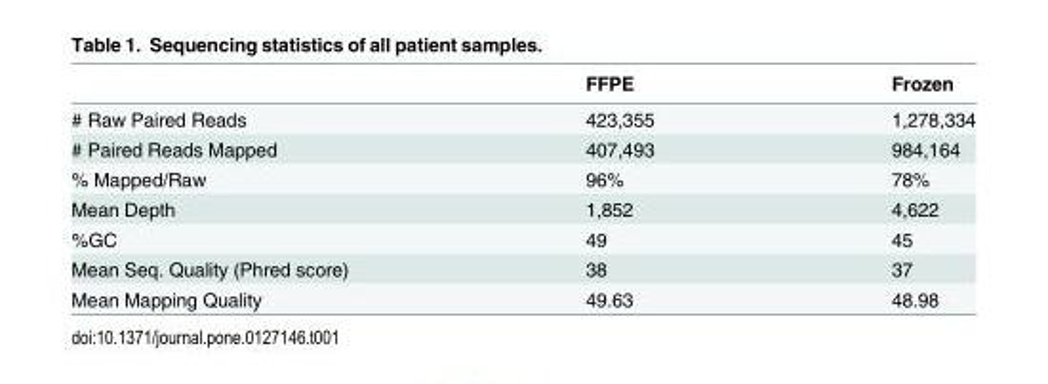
<table><thead><tr><td></td><td>FFPE</td><td>Frozen</td></tr></thead><tbody><tr><td># Raw Paired Reads</td><td>423,355</td><td>1,278,334</td></tr><tr><td># Paired Reads Mapped</td><td>407,493</td><td>984,164</td></tr><tr><td>% Mapped/Raw</td><td>96%</td><td>78%</td></tr><tr><td>Mean Depth</td><td>1,852</td><td>4,622</td></tr><tr><td>%GC</td><td>49</td><td>45</td></tr><tr><td>Mean Seq. Quality (Phred score)</td><td>38</td><td>37</td></tr><tr><td>Mean Mapping Quality</td><td>49.63</td><td>48.98</td></tr></tbody></table>